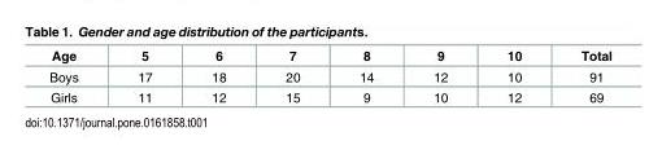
<table><thead><tr><td>Age</td><td>5</td><td>6</td><td>7</td><td>8</td><td>9</td><td>10</td><td>Total</td></tr></thead><tbody><tr><td>Boys</td><td>17</td><td>18</td><td>20</td><td>14</td><td>12</td><td>10</td><td>91</td></tr><tr><td>Girls</td><td>11</td><td>12</td><td>15</td><td>9</td><td>10</td><td>12</td><td>69</td></tr></tbody></table>